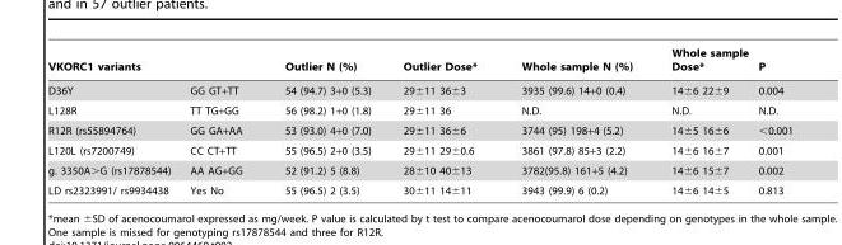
<table><thead><tr><td colspan="2">VKORC1 variants</td><td rowspan="2">Outlier N (%) 54 (94.7) 3+0 (5.3)</td><td rowspan="2">Outlier Dose* 29±11 36±3</td><td rowspan="2">Whole sample N (%) 3935 (99.6) 14+0 (0.4)</td><td rowspan="2">Whole sample Dose* 14±6 22±9</td><td rowspan="2">P 0.004</td></tr><tr><td>D36Y</td><td>GG GT+TT</td></tr></thead><tbody><tr><td>L128R</td><td>TT TG+GG</td><td>56 (98.2) 1+0 (1.8)</td><td>29±11 36</td><td>N.D.</td><td>N.D.</td><td>N.D.</td></tr><tr><td>R12R (rs55894764)</td><td>GG GA+AA</td><td>53 (93.0) 4+0 (7.0)</td><td>29±11 36±6</td><td>3744 (95) 198+4 (5.2)</td><td>14±5 16±6</td><td>&lt;0.001</td></tr><tr><td>L120L (rs7200749)</td><td>CC CT+TT</td><td>55 (96.5) 2+0 (3.5)</td><td>29±11 29±0.6</td><td>3861 (97.8) 85+3 (2.2)</td><td>14±6 16±7</td><td>0.001</td></tr><tr><td>g. 3350A&gt;G (rs17878544)</td><td>AA AG+GG</td><td>52 (91.2) 5 (8.8)</td><td>28±10 40±13</td><td>3782(95.8) 161+5 (4.2)</td><td>14±6 15±7</td><td>0.002</td></tr><tr><td>LD rs2323991/ rs9934438</td><td>Yes No</td><td>55 (96.5) 2 (3.5)</td><td>30±11 14±11</td><td>3943 (99.9) 6 (0.2)</td><td>14±6 14±5</td><td>0.813</td></tr></tbody></table>